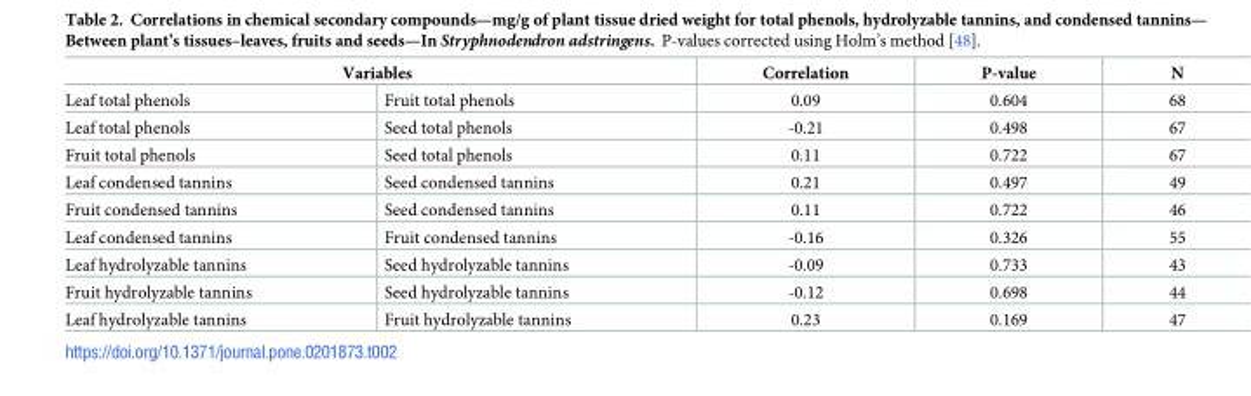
<table><thead><tr><td colspan="2">Variables</td><td rowspan="2">Correlation 0.09</td><td rowspan="2">P-value 0.604</td><td rowspan="2">N 68</td></tr><tr><td>Leaf total phenols</td><td>Fruit total phenols</td></tr></thead><tbody><tr><td>Leaf total phenols</td><td>Seed total phenols</td><td>-0.21</td><td>0.498</td><td>67</td></tr><tr><td>Fruit total phenols</td><td>Seed total phenols</td><td>0.11</td><td>0.722</td><td>67</td></tr><tr><td>Leaf condensed tannins</td><td>Seed condensed tannins</td><td>0.21</td><td>0.497</td><td>49</td></tr><tr><td>Fruit condensed tannins</td><td>Seed condensed tannins</td><td>0.11</td><td>0.722</td><td>46</td></tr><tr><td>Leaf condensed tannins</td><td>Fruit condensed tannins</td><td>-0.16</td><td>0.326</td><td>55</td></tr><tr><td>Leaf hydrolyzable tannins</td><td>Seed hydrolyzable tannins</td><td>-0.09</td><td>0.733</td><td>43</td></tr><tr><td>Fruit hydrolyzable tannins</td><td>Seed hydrolyzable tannins</td><td>-0.12</td><td>0.698</td><td>44</td></tr><tr><td>Leaf hydrolyzable tannins</td><td>Fruit hydrolyzable tannins</td><td>0.23</td><td>0.169</td><td>47</td></tr></tbody></table>